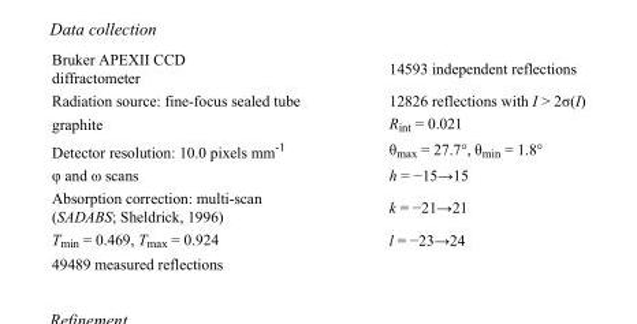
<table><tbody><tr><td>Bruker APEXII CCD diffractometer</td><td>14593 independent reflections</td></tr><tr><td>Radiation source: fine-focus sealed tube</td><td>12826 reflections with I &gt; 2σ(I)</td></tr><tr><td>graphite</td><td>R<sub>int</sub> = 0.021</td></tr><tr><td>Detector resolution: 10.0 pixels mm<sup>-1</sup></td><td>θ<sub>max</sub> = 27.7°, θ<sub>min</sub> = 1.8°</td></tr><tr><td>φ and ω scans</td><td>h = −15→15</td></tr><tr><td>Absorption correction: multi-scan (SADABS; Sheldrick, 1996)</td><td>k = −21→21</td></tr><tr><td>T<sub>min</sub> = 0.469, T<sub>max</sub> = 0.924</td><td>l = −23→24</td></tr><tr><td>49489 measured reflections</td><td></td></tr></tbody></table>